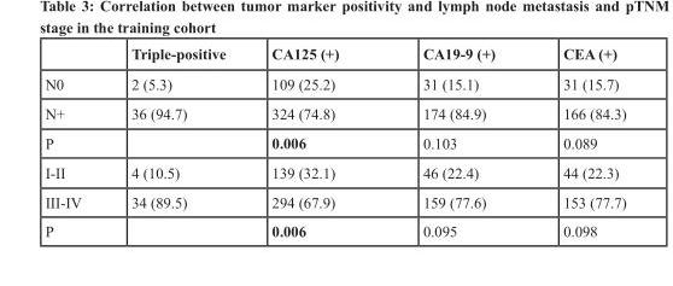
<table><thead><tr><td></td><td>triple-positive</td><td>cA125 (+)</td><td>cA19-9 (+)</td><td>cEA (+)</td></tr></thead><tbody><tr><td>N0</td><td>2 (5.3)</td><td>109 (25.2)</td><td>31 (15.1)</td><td>31 (15.7)</td></tr><tr><td>N+</td><td>36 (94.7)</td><td>324 (74.8)</td><td>174 (84.9)</td><td>166 (84.3)</td></tr><tr><td>P</td><td></td><td>0.006</td><td>0.103</td><td>0.089</td></tr><tr><td>I-II</td><td>4 (10.5)</td><td>139 (32.1)</td><td>46 (22.4)</td><td>44 (22.3)</td></tr><tr><td>III-IV</td><td>34 (89.5)</td><td>294 (67.9)</td><td>159 (77.6)</td><td>153 (77.7)</td></tr><tr><td>P</td><td></td><td>0.006</td><td>0.095</td><td>0.098</td></tr></tbody></table>